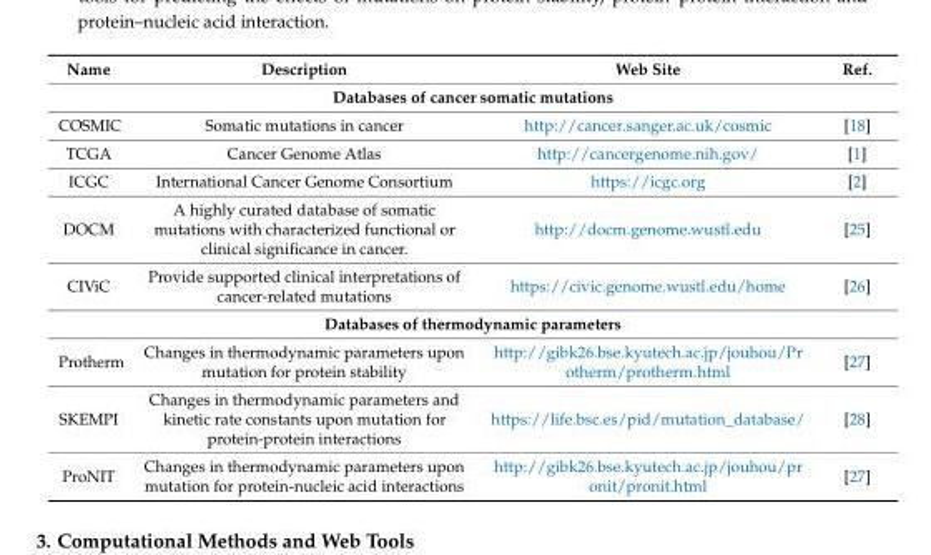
<table><thead><tr><td>Name</td><td>Description</td><td>Web Site</td><td>Ref.</td></tr></thead><tbody><tr><td colspan="4">Databases of cancer somatic mutations</td></tr><tr><td>COSMIC</td><td>Somatic mutations in cancer</td><td>http://cancer.sanger.ac.uk/cosmic</td><td>[18]</td></tr><tr><td>TCGA</td><td>Cancer Genome Atlas</td><td>http://cancergenome.nih.gov/</td><td>[1]</td></tr><tr><td>ICGC</td><td>International Cancer Genome Consortium</td><td>https://icgc.org</td><td>[2]</td></tr><tr><td>DOCM</td><td>A highly curated database of somatic mutations with characterized functional or clinical significance in cancer.</td><td>http://docm.genome.wustl.edu</td><td>[25]</td></tr><tr><td>CIViC</td><td>Provide supported clinical interpretations of cancer-related mutations</td><td>https://civic.genome.wustl.edu/home</td><td>[26]</td></tr><tr><td colspan="4">Databases of thermodynamic parameters</td></tr><tr><td>Protherm</td><td>Changes in thermodynamic parameters upon mutation for protein stability</td><td>http://gibk26.bse.kyutech.ac.jp/jouhou/Pr otherm/protherm.html</td><td>[27]</td></tr><tr><td>SKEMPI</td><td>Changes in thermodynamic parameters and kinetic rate constants upon mutation for protein-protein interactions</td><td>https://life.bsc.es/pid/mutation_database/</td><td>[28]</td></tr><tr><td>ProNIT</td><td>Changes in thermodynamic parameters upon mutation for protein-nucleic acid interactions</td><td>http://gibk26.bse.kyutech.ac.jp/jouhou/pr onit/pronit.html</td><td>[27]</td></tr></tbody></table>